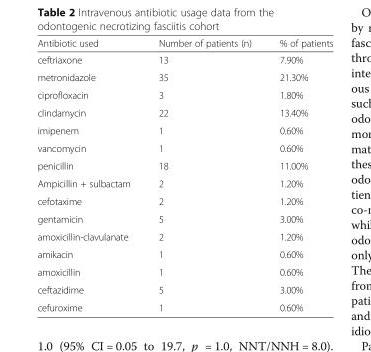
<table><thead><tr><td>Antibiotic used</td><td>Number of patients (n)</td><td>% of patients</td></tr></thead><tbody><tr><td>ceftriaxone</td><td>13</td><td>7.90%</td></tr><tr><td>metronidazole</td><td>35</td><td>21.30%</td></tr><tr><td>ciprofloxacin</td><td>3</td><td>1.80%</td></tr><tr><td>clindamycin</td><td>22</td><td>13.40%</td></tr><tr><td>imipenem</td><td>1</td><td>0.60%</td></tr><tr><td>vancomycin</td><td>1</td><td>0.60%</td></tr><tr><td>penicillin</td><td>18</td><td>11.00%</td></tr><tr><td>Ampicillin + sulbactam</td><td>2</td><td>1.20%</td></tr><tr><td>cefotaxime</td><td>2</td><td>1.20%</td></tr><tr><td>gentamicin</td><td>5</td><td>3.00%</td></tr><tr><td>amoxicillin-clavulanate</td><td>2</td><td>1.20%</td></tr><tr><td>amikacin</td><td>1</td><td>0.60%</td></tr><tr><td>amoxicillin</td><td>1</td><td>0.60%</td></tr><tr><td>ceftazidime</td><td>5</td><td>3.00%</td></tr><tr><td>cefuroxime</td><td>1</td><td>0.60%</td></tr></tbody></table>